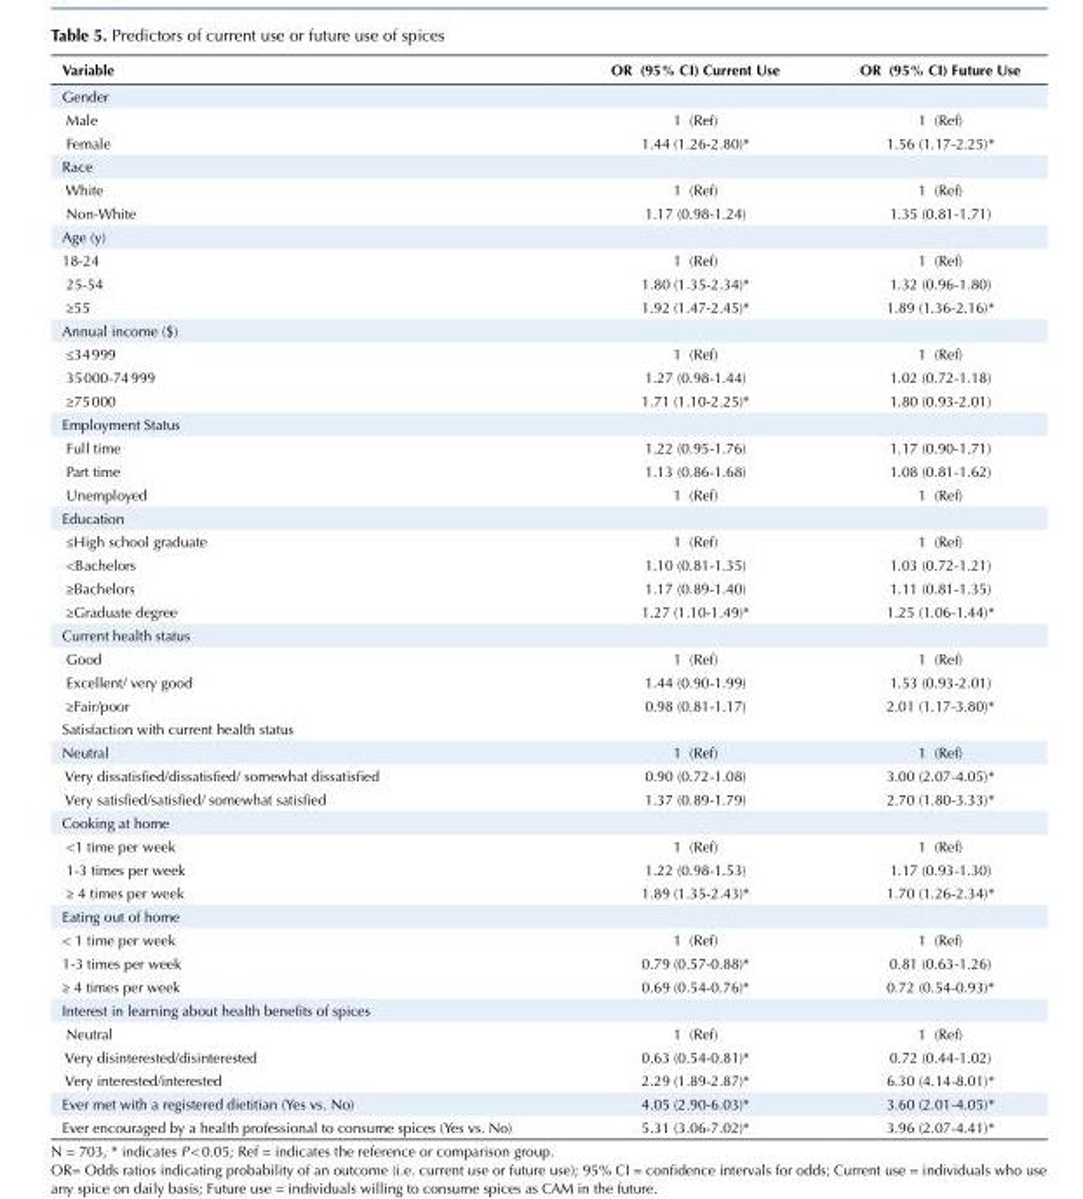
<table><tbody><tr><td>Variable</td><td>OR (95% CI) Current Use</td><td>OR (95% CI) Future Use</td></tr><tr><td colspan="3">Gender</td></tr><tr><td>Male</td><td>1 (Ref)</td><td>1 (Ref)</td></tr><tr><td>Female</td><td>1.44 (1.26-2.80)*</td><td>1.56 (1.17-2.25)*</td></tr><tr><td colspan="3">Race</td></tr><tr><td>White</td><td>1 (Ref)</td><td>1 (Ref)</td></tr><tr><td>Non-White</td><td>1.17 (0.98-1.24)</td><td>1.35 (0.81-1.71)</td></tr><tr><td colspan="3">Age (y)</td></tr><tr><td>18-24</td><td>1 (Ref)</td><td>1 (Ref)</td></tr><tr><td>25-54</td><td>1.80 (1.35-2.34)*</td><td>1.32 (0.96-1.80)</td></tr><tr><td>≥55</td><td>1.92 (1.47-2.45)*</td><td>1.89 (1.36-2.16)*</td></tr><tr><td colspan="3">Annual income ($)</td></tr><tr><td>≤34 999</td><td>1 (Ref)</td><td>1 (Ref)</td></tr><tr><td>35 000-74 999</td><td>1.27 (0.98-1.44)</td><td>1.02 (0.72-1.18)</td></tr><tr><td>≥75 000</td><td>1.71 (1.10-2.25)*</td><td>1.80 (0.93-2.01)</td></tr><tr><td colspan="3">Employment Status</td></tr><tr><td>Full time</td><td>1.22 (0.95-1.76)</td><td>1.17 (0.90-1.71)</td></tr><tr><td>Part time</td><td>1.13 (0.86-1.68)</td><td>1.08 (0.81-1.62)</td></tr><tr><td>Unemployed</td><td>1 (Ref)</td><td>1 (Ref)</td></tr><tr><td colspan="3">Education</td></tr><tr><td>≤High school graduate</td><td>1 (Ref)</td><td>1 (Ref)</td></tr><tr><td>&lt;Bachelors</td><td>1.10 (0.81-1.35)</td><td>1.03 (0.72-1.21)</td></tr><tr><td>≥Bachelors</td><td>1.17 (0.89-1.40)</td><td>1.11 (0.81-1.35)</td></tr><tr><td>≥Graduate degree</td><td>1.27 (1.10-1.49)*</td><td>1.25 (1.06-1.44)*</td></tr><tr><td colspan="3">Current health status</td></tr><tr><td>Good</td><td>1 (Ref)</td><td>1 (Ref)</td></tr><tr><td>Excellent/ very good</td><td>1.44 (0.90-1.99)</td><td>1.53 (0.93-2.01)</td></tr><tr><td>≥Fair/poor</td><td>0.98 (0.81-1.17)</td><td>2.01 (1.17-3.80)*</td></tr><tr><td colspan="3">Satisfaction with current health status</td></tr><tr><td>Neutral</td><td>1 (Ref)</td><td>1 (Ref)</td></tr><tr><td>Very dissatisfied/dissatisfied/ somewhat dissatisfied</td><td>0.90 (0.72-1.08)</td><td>3.00 (2.07-4.05)*</td></tr><tr><td>Very satisfied/satisfied/ somewhat satisfied</td><td>1.37 (0.89-1.79)</td><td>2.70 (1.80-3.33)*</td></tr><tr><td colspan="3">Cooking at home</td></tr><tr><td>&lt;1 time per week</td><td>1 (Ref)</td><td>1 (Ref)</td></tr><tr><td>1-3 times per week</td><td>1.22 (0.98-1.53)</td><td>1.17 (0.93-1.30)</td></tr><tr><td>≥ 4 times per week</td><td>1.89 (1.35-2.43)*</td><td>1.70 (1.26-2.34)*</td></tr><tr><td colspan="3">Eating out of home</td></tr><tr><td>&lt; 1 time per week</td><td>1 (Ref)</td><td>1 (Ref)</td></tr><tr><td>1-3 times per week</td><td>0.79 (0.57-0.88)*</td><td>0.81 (0.63-1.26)</td></tr><tr><td>≥ 4 times per week</td><td>0.69 (0.54-0.76)*</td><td>0.72 (0.54-0.93)*</td></tr><tr><td colspan="3">Interest in learning about health benefits of spices</td></tr><tr><td>Neutral</td><td>1 (Ref)</td><td>1 (Ref)</td></tr><tr><td>Very disinterested/disinterested</td><td>0.63 (0.54-0.81)*</td><td>0.72 (0.44-1.02)</td></tr><tr><td>Very interested/interested</td><td>2.29 (1.89-2.87)*</td><td>6.30 (4.14-8.01)*</td></tr><tr><td>Ever met with a registered dietitian (Yes vs. No)</td><td>4.05 (2.90-6.03)*</td><td>3.60 (2.01-4.05)*</td></tr><tr><td>Ever encouraged by a health professional to consume spices (Yes vs. No)</td><td>5.31 (3.06-7.02)*</td><td>3.96 (2.07-4.41)*</td></tr></tbody></table>